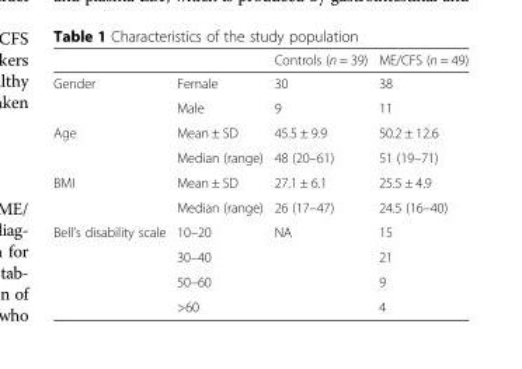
<table><thead><tr><td></td><td></td><td>Controls (n = 39)</td><td>ME/CFS (n = 49)</td></tr></thead><tbody><tr><td rowspan="2">Gender</td><td>Female</td><td>30</td><td>38</td></tr><tr><td>Male</td><td>9</td><td>11</td></tr><tr><td rowspan="2">Age</td><td>Mean ± SD</td><td>45.5 ± 9.9</td><td>50.2 ± 12.6</td></tr><tr><td>Median (range)</td><td>48 (20–61)</td><td>51 (19–71)</td></tr><tr><td rowspan="2">BMI</td><td>Mean ± SD</td><td>27.1 ± 6.1</td><td>25.5 ± 4.9</td></tr><tr><td>Median (range)</td><td>26 (17–47)</td><td>24.5 (16–40)</td></tr><tr><td rowspan="4">Bell’s disability scale</td><td>10–20</td><td rowspan="4">NA</td><td>15</td></tr><tr><td>30–40</td><td>21</td></tr><tr><td>50–60</td><td>9</td></tr><tr><td>&gt;60</td><td>4</td></tr></tbody></table>